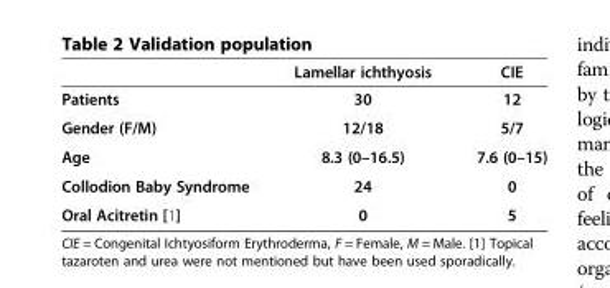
<table><thead><tr><td></td><td>Lamellar ichthyosis</td><td>CIE</td></tr></thead><tbody><tr><td>Patients</td><td>30</td><td>12</td></tr><tr><td>Gender (F/M)</td><td>12/18</td><td>5/7</td></tr><tr><td>Age</td><td>8.3 (0–16.5)</td><td>7.6 (0–15)</td></tr><tr><td>Collodion Baby Syndrome</td><td>24</td><td>0</td></tr><tr><td>Oral Acitretin [1]</td><td>0</td><td>5</td></tr></tbody></table>